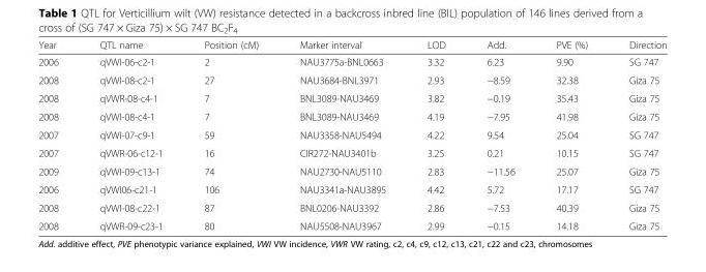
<table><thead><tr><td>Year</td><td>QTL name</td><td>Position (cM)</td><td>Marker interval</td><td>LOD</td><td>Add.</td><td>PVE (%)</td><td>Direction</td></tr></thead><tbody><tr><td>2006</td><td>qVWI-06-c2-1</td><td>2</td><td>NAU3775a-BNL0663</td><td>3.32</td><td>6.23</td><td>9.90</td><td>SG 747</td></tr><tr><td>2008</td><td>qVWI-08-c2-1</td><td>27</td><td>NAU3684-BNL3971</td><td>2.93</td><td>−8.59</td><td>32.38</td><td>Giza 75</td></tr><tr><td>2008</td><td>qVWR-08-c4-1</td><td>7</td><td>BNL3089-NAU3469</td><td>3.82</td><td>−0.19</td><td>35.43</td><td>Giza 75</td></tr><tr><td>2008</td><td>qVWI-08-c4-1</td><td>7</td><td>BNL3089-NAU3469</td><td>4.19</td><td>−7.95</td><td>41.98</td><td>Giza 75</td></tr><tr><td>2007</td><td>qVWI-07-c9-1</td><td>59</td><td>NAU3358-NAU5494</td><td>4.22</td><td>9.54</td><td>25.04</td><td>SG 747</td></tr><tr><td>2007</td><td>qVWR-06-c12-1</td><td>16</td><td>CIR272-NAU3401b</td><td>3.25</td><td>0.21</td><td>10.15</td><td>SG 747</td></tr><tr><td>2009</td><td>qVWI-09-c13-1</td><td>74</td><td>NAU2730-NAU5110</td><td>2.83</td><td>−11.56</td><td>25.07</td><td>Giza 75</td></tr><tr><td>2006</td><td>qVWI06-c21-1</td><td>106</td><td>NAU3341a-NAU3895</td><td>4.42</td><td>5.72</td><td>17.17</td><td>SG 747</td></tr><tr><td>2008</td><td>qVWI-08-c22-1</td><td>87</td><td>BNL0206-NAU3392</td><td>2.86</td><td>−7.53</td><td>40.39</td><td>Giza 75</td></tr><tr><td>2008</td><td>qVWR-09-c23-1</td><td>80</td><td>NAU5508-NAU3967</td><td>2.99</td><td>−0.15</td><td>14.18</td><td>Giza 75</td></tr></tbody></table>